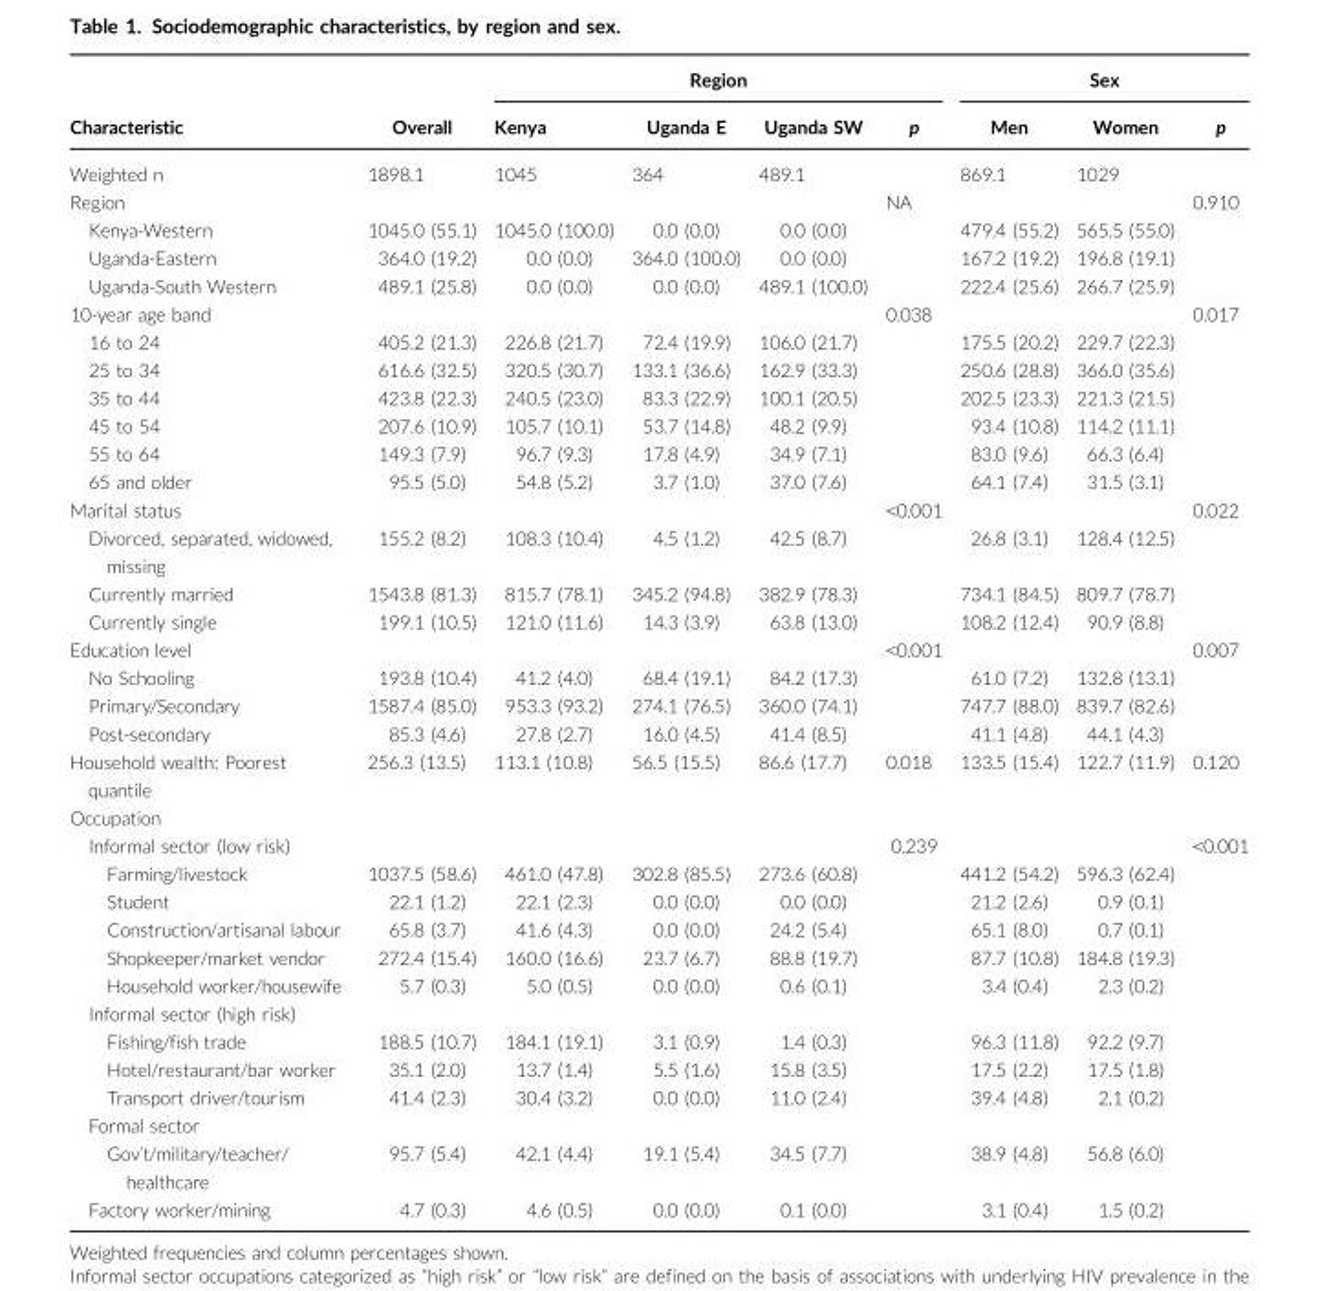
<table><thead><tr><td rowspan="2">Characteristic</td><td rowspan="2">Overall</td><td colspan="4">Region</td><td colspan="3">Sex</td></tr><tr><td>Kenya</td><td>Uganda E</td><td>Uganda SW</td><td>p</td><td>Men</td><td>Women</td><td>p</td></tr></thead><tbody><tr><td>Weighted n</td><td>1898.1</td><td>1045</td><td>364</td><td>489.1</td><td></td><td>869.1</td><td>1029</td><td></td></tr><tr><td>Region</td><td></td><td></td><td></td><td></td><td>NA</td><td></td><td></td><td>0.910</td></tr><tr><td>Kenya-Western</td><td>1045.0 (55.1)</td><td>1045.0 (100.0)</td><td>0.0 (0.0)</td><td>0.0 (0.0)</td><td></td><td>479.4 (55.2)</td><td>565.5 (55.0)</td><td></td></tr><tr><td>Uganda-Eastern</td><td>364.0 (19.2)</td><td>0.0 (0.0)</td><td>364.0 (100.0)</td><td>0.0 (0.0)</td><td></td><td>167.2 (19.2)</td><td>196.8 (19.1)</td><td></td></tr><tr><td>Uganda-South Western</td><td>489.1 (25.8)</td><td>0.0 (0.0)</td><td>0.0 (0.0)</td><td>489.1 (100.0)</td><td></td><td>222.4 (25.6)</td><td>266.7 (25.9)</td><td></td></tr><tr><td>10-year age band</td><td></td><td></td><td></td><td></td><td>0.038</td><td></td><td></td><td>0.017</td></tr><tr><td>16 to 24</td><td>405.2 (21.3)</td><td>226.8 (21.7)</td><td>72.4 (19.9)</td><td>106.0 (21.7)</td><td></td><td>175.5 (20.2)</td><td>229.7 (22.3)</td><td></td></tr><tr><td>25 to 34</td><td>616.6 (32.5)</td><td>320.5 (30.7)</td><td>133.1 (36.6)</td><td>162.9 (33.3)</td><td></td><td>250.6 (28.8)</td><td>366.0 (35.6)</td><td></td></tr><tr><td>35 to 44</td><td>423.8 (22.3)</td><td>240.5 (23.0)</td><td>83.3 (22.9)</td><td>100.1 (20.5)</td><td></td><td>202.5 (23.3)</td><td>221.3 (21.5)</td><td></td></tr><tr><td>45 to 54</td><td>207.6 (10.9)</td><td>105.7 (10.1)</td><td>53.7 (14.8)</td><td>48.2 (9.9)</td><td></td><td>93.4 (10.8)</td><td>114.2 (11.1)</td><td></td></tr><tr><td>55 to 64</td><td>149.3 (7.9)</td><td>96.7 (9.3)</td><td>17.8 (4.9)</td><td>34.9 (7.1)</td><td></td><td>83.0 (9.6)</td><td>66.3 (6.4)</td><td></td></tr><tr><td>65 and older</td><td>95.5 (5.0)</td><td>54.8 (5.2)</td><td>3.7 (1.0)</td><td>37.0 (7.6)</td><td></td><td>64.1 (7.4)</td><td>31.5 (3.1)</td><td></td></tr><tr><td>Marital status</td><td></td><td></td><td></td><td></td><td>&lt;0.001</td><td></td><td></td><td>0.022</td></tr><tr><td>Divorced, separated, widowed, missing</td><td>155.2 (8.2)</td><td>108.3 (10.4)</td><td>4.5 (1.2)</td><td>42.5 (8.7)</td><td></td><td>26.8 (3.1)</td><td>128.4 (12.5)</td><td></td></tr><tr><td>Currently married</td><td>1543.8 (81.3)</td><td>815.7 (78.1)</td><td>345.2 (94.8)</td><td>382.9 (78.3)</td><td></td><td>734.1 (84.5)</td><td>809.7 (78.7)</td><td></td></tr><tr><td>Currently single</td><td>199.1 (10.5)</td><td>121.0 (11.6)</td><td>14.3 (3.9)</td><td>63.8 (13.0)</td><td></td><td>108.2 (12.4)</td><td>90.9 (8.8)</td><td></td></tr><tr><td>Education level</td><td></td><td></td><td></td><td></td><td>&lt;0.001</td><td></td><td></td><td>0.007</td></tr><tr><td>No Schooling</td><td>193.8 (10.4)</td><td>41.2 (4.0)</td><td>68.4 (19.1)</td><td>84.2 (17.3)</td><td></td><td>61.0 (7.2)</td><td>132.8 (13.1)</td><td></td></tr><tr><td>Primary/Secondary</td><td>1587.4 (85.0)</td><td>953.3 (93.2)</td><td>274.1 (76.5)</td><td>360.0 (74.1)</td><td></td><td>747.7 (88.0)</td><td>839.7 (82.6)</td><td></td></tr><tr><td>Post-secondary</td><td>85.3 (4.6)</td><td>27.8 (2.7)</td><td>16.0 (4.5)</td><td>41.4 (8.5)</td><td></td><td>41.1 (4.8)</td><td>44.1 (4.3)</td><td></td></tr><tr><td>Household wealth: Poorest quantile</td><td>256.3 (13.5)</td><td>113.1 (10.8)</td><td>56.5 (15.5)</td><td>86.6 (17.7)</td><td>0.018</td><td>133.5 (15.4)</td><td>122.7 (11.9)</td><td>0.120</td></tr><tr><td colspan="9">Occupation</td></tr><tr><td>Informal sector (low risk)</td><td></td><td></td><td></td><td></td><td>0.239</td><td></td><td></td><td>&lt;0.001</td></tr><tr><td>Farming/livestock</td><td>1037.5 (58.6)</td><td>461.0 (47.8)</td><td>302.8 (85.5)</td><td>273.6 (60.8)</td><td></td><td>441.2 (54.2)</td><td>596.3 (62.4)</td><td></td></tr><tr><td>Student</td><td>22.1 (1.2)</td><td>22.1 (2.3)</td><td>0.0 (0.0)</td><td>0.0 (0.0)</td><td></td><td>21.2 (2.6)</td><td>0.9 (0.1)</td><td></td></tr><tr><td>Construction/artisanal labour</td><td>65.8 (3.7)</td><td>41.6 (4.3)</td><td>0.0 (0.0)</td><td>24.2 (5.4)</td><td></td><td>65.1 (8.0)</td><td>0.7 (0.1)</td><td></td></tr><tr><td>Shopkeeper/market vendor</td><td>272.4 (15.4)</td><td>160.0 (16.6)</td><td>23.7 (6.7)</td><td>88.8 (19.7)</td><td></td><td>87.7 (10.8)</td><td>184.8 (19.3)</td><td></td></tr><tr><td>Household worker/housewife</td><td>5.7 (0.3)</td><td>5.0 (0.5)</td><td>0.0 (0.0)</td><td>0.6 (0.1)</td><td></td><td>3.4 (0.4)</td><td>2.3 (0.2)</td><td></td></tr><tr><td colspan="9">Informal sector (high risk)</td></tr><tr><td>Fishing/fish trade</td><td>188.5 (10.7)</td><td>184.1 (19.1)</td><td>3.1 (0.9)</td><td>1.4 (0.3)</td><td></td><td>96.3 (11.8)</td><td>92.2 (9.7)</td><td></td></tr><tr><td>Hotel/restaurant/bar worker</td><td>35.1 (2.0)</td><td>13.7 (1.4)</td><td>5.5 (1.6)</td><td>15.8 (3.5)</td><td></td><td>17.5 (2.2)</td><td>17.5 (1.8)</td><td></td></tr><tr><td>Transport driver/tourism</td><td>41.4 (2.3)</td><td>30.4 (3.2)</td><td>0.0 (0.0)</td><td>11.0 (2.4)</td><td></td><td>39.4 (4.8)</td><td>2.1 (0.2)</td><td></td></tr><tr><td colspan="9">Formal sector</td></tr><tr><td>Gov’t/military/teacher/ healthcare</td><td>95.7 (5.4)</td><td>42.1 (4.4)</td><td>19.1 (5.4)</td><td>34.5 (7.7)</td><td></td><td>38.9 (4.8)</td><td>56.8 (6.0)</td><td></td></tr><tr><td>Factory worker/mining</td><td>4.7 (0.3)</td><td>4.6 (0.5)</td><td>0.0 (0.0)</td><td>0.1 (0.0)</td><td></td><td>3.1 (0.4)</td><td>1.5 (0.2)</td><td></td></tr></tbody></table>